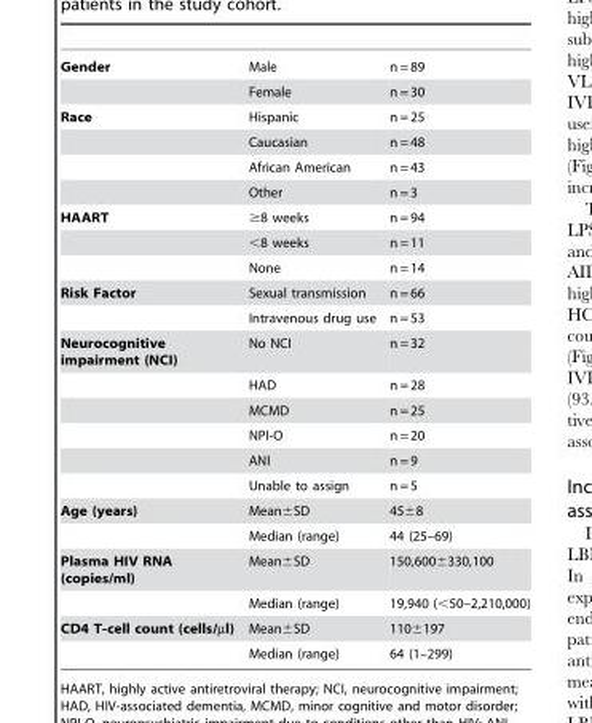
<table><tbody><tr><td rowspan="2">Gender</td><td>Male</td><td>n = 89</td></tr><tr><td>Female</td><td>n = 30</td></tr><tr><td rowspan="4">Race</td><td>Hispanic</td><td>n = 25</td></tr><tr><td>Caucasian</td><td>n = 48</td></tr><tr><td>African American</td><td>n = 43</td></tr><tr><td>Other</td><td>n = 3</td></tr><tr><td rowspan="3">HAART</td><td>≥8 weeks</td><td>n = 94</td></tr><tr><td>&lt;8 weeks</td><td>n = 11</td></tr><tr><td>None</td><td>n = 14</td></tr><tr><td rowspan="2">Risk Factor</td><td>Sexual transmission</td><td>n = 66</td></tr><tr><td>Intravenous drug use</td><td>n = 53</td></tr><tr><td rowspan="6">Neurocognitive impairment (NCI)</td><td>No NCI</td><td>n = 32</td></tr><tr><td>HAD</td><td>n = 28</td></tr><tr><td>MCMD</td><td>n = 25</td></tr><tr><td>NPI-O</td><td>n = 20</td></tr><tr><td>ANI</td><td>n = 9</td></tr><tr><td>Unable to assign</td><td>n = 5</td></tr><tr><td rowspan="2">Age (years)</td><td>Mean±SD</td><td>45±8</td></tr><tr><td>Median (range)</td><td>44 (25–69)</td></tr><tr><td rowspan="2">Plasma HIV RNA (copies/ml)</td><td>Mean±SD</td><td>150,600±330,100</td></tr><tr><td>Median (range)</td><td>19,940 (&lt;50–2,210,000)</td></tr><tr><td rowspan="2">CD4 T-cell count (cells/µl)</td><td>Mean±SD</td><td>110±197</td></tr><tr><td>Median (range)</td><td>64 (1–299)</td></tr></tbody></table>